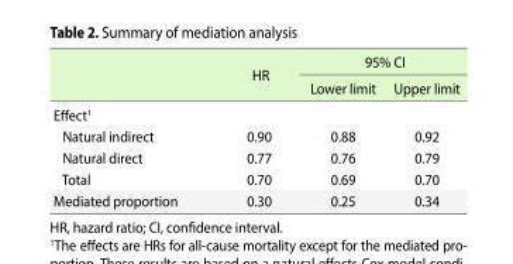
<table><thead><tr><td rowspan="2"></td><td rowspan="2">HR</td><td colspan="2">95% CI</td></tr><tr><td>Lower limit</td><td>Upper limit</td></tr></thead><tbody><tr><td colspan="4">Effect<sup>1</sup></td></tr><tr><td>Natural indirect</td><td>0.90</td><td>0.88</td><td>0.92</td></tr><tr><td>Natural direct</td><td>0.77</td><td>0.76</td><td>0.79</td></tr><tr><td>Total</td><td>0.70</td><td>0.69</td><td>0.70</td></tr><tr><td>Mediated proportion</td><td>0.30</td><td>0.25</td><td>0.34</td></tr></tbody></table>